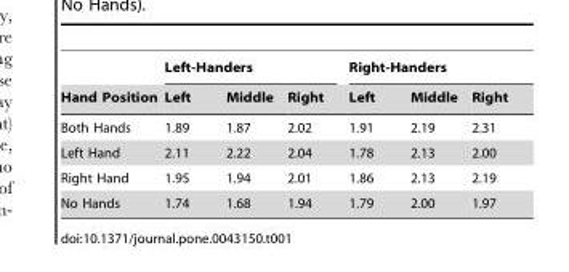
<table><thead><tr><td rowspan="2">Hand Position</td><td colspan="3">Left-Handers</td><td colspan="3">Right-Handers</td></tr><tr><td>Left</td><td>Middle</td><td>Right</td><td>Left</td><td>Middle</td><td>Right</td></tr></thead><tbody><tr><td>Both Hands</td><td>1.89</td><td>1.87</td><td>2.02</td><td>1.91</td><td>2.19</td><td>2.31</td></tr><tr><td>Left Hand</td><td>2.11</td><td>2.22</td><td>2.04</td><td>1.78</td><td>2.13</td><td>2.00</td></tr><tr><td>Right Hand</td><td>1.95</td><td>1.94</td><td>2.01</td><td>1.86</td><td>2.13</td><td>2.19</td></tr><tr><td>No Hands</td><td>1.74</td><td>1.68</td><td>1.94</td><td>1.79</td><td>2.00</td><td>1.97</td></tr></tbody></table>